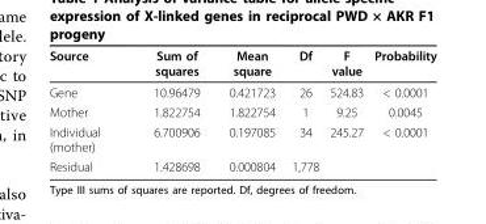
<table><thead><tr><td>Source</td><td>Sum of squares</td><td>Mean square</td><td>Df</td><td>F value</td><td>Probability</td></tr></thead><tbody><tr><td>Gene</td><td>10.96479</td><td>0.421723</td><td>26</td><td>524.83</td><td>&lt; 0.0001</td></tr><tr><td>Mother</td><td>1.822754</td><td>1.822754</td><td>1</td><td>9.25</td><td>0.0045</td></tr><tr><td>Individual (mother)</td><td>6.700906</td><td>0.197085</td><td>34</td><td>245.27</td><td>&lt; 0.0001</td></tr><tr><td>Residual</td><td>1.428698</td><td>0.000804</td><td>1,778</td><td></td><td></td></tr></tbody></table>